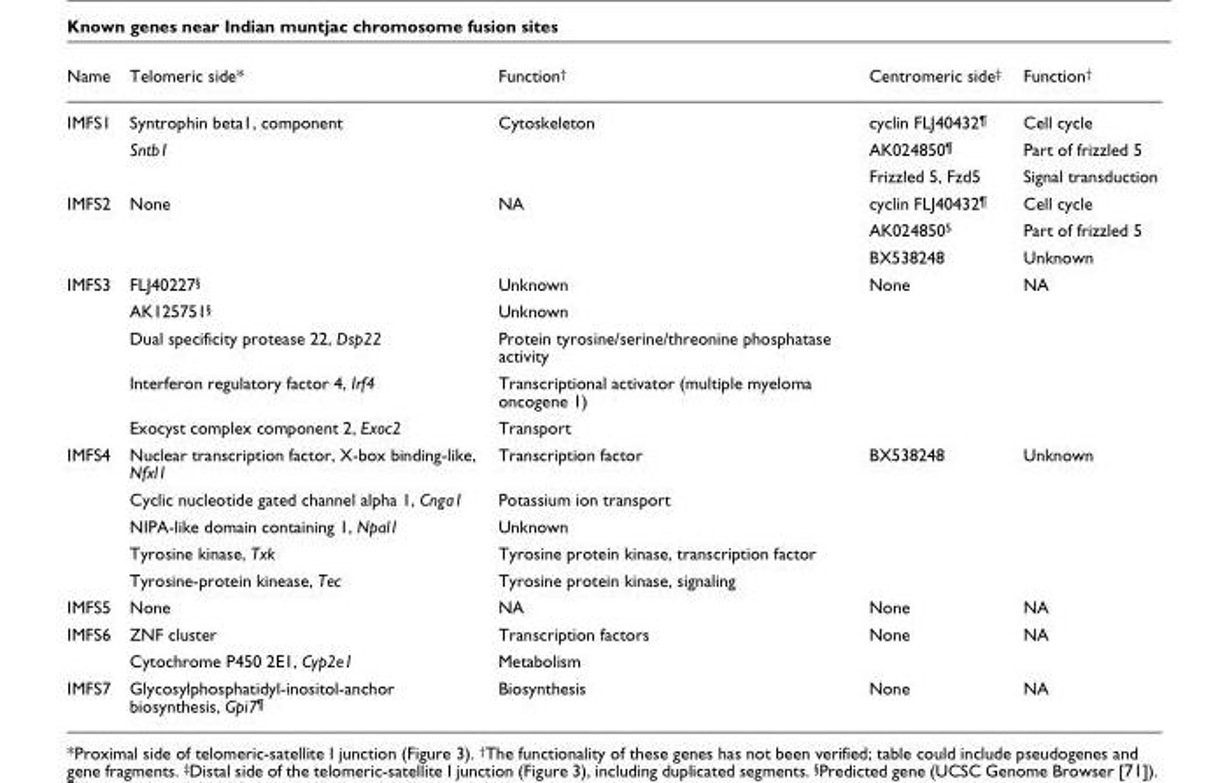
<table><thead><tr><td>Name</td><td>Telomeric side*</td><td>Function<sup>†</sup></td><td>Centromeric side<sup>‡</sup></td><td>Function<sup>†</sup></td></tr></thead><tbody><tr><td rowspan="3">IMFS1</td><td>Syntrophin beta1, component</td><td>Cytoskeleton</td><td>cyclin FLJ40432<sup>¶</sup></td><td>Cell cycle</td></tr><tr><td>Sntb1</td><td></td><td>AK024850<sup>¶</sup></td><td>Part of frizzled 5</td></tr><tr><td></td><td></td><td>Frizzled 5, Fzd5</td><td>Signal transduction</td></tr><tr><td rowspan="3">IMFS2</td><td>None</td><td>NA</td><td>cyclin FLJ40432<sup>¶</sup></td><td>Cell cycle</td></tr><tr><td></td><td></td><td>AK024850<sup>5</sup></td><td>Part of frizzled 5</td></tr><tr><td></td><td></td><td>BX538248</td><td>Unknown</td></tr><tr><td rowspan="5">IMFS3</td><td>FLJ40227<sup>§</sup></td><td>Unknown</td><td>None</td><td>NA</td></tr><tr><td>AK125751<sup>§</sup></td><td>Unknown</td><td></td><td></td></tr><tr><td>Dual specificity protease 22, Dsp22</td><td>Protein tyrosine/serine/threonine phosphatase activity</td><td></td><td></td></tr><tr><td>Interferon regulatory factor 4, Irf4</td><td>Transcriptional activator (multiple myeloma oncogene 1)</td><td></td><td></td></tr><tr><td>Exocyst complex component 2, Exoc2</td><td>Transport</td><td></td><td></td></tr><tr><td rowspan="5">IMFS4</td><td>Nuclear transcription factor, X-box binding-like, Nfxl1</td><td>Transcription factor</td><td>BX538248</td><td>Unknown</td></tr><tr><td>Cyclic nucleotide gated channel alpha 1, Cnga1</td><td>Potassium ion transport</td><td></td><td></td></tr><tr><td>NIPA-like domain containing 1, Npal1</td><td>Unknown</td><td></td><td></td></tr><tr><td>Tyrosine kinase, Txk</td><td>Tyrosine protein kinase, transcription factor</td><td></td><td></td></tr><tr><td>Tyrosine-protein kinease, Tec</td><td>Tyrosine protein kinase, signaling</td><td></td><td></td></tr><tr><td>IMFS5</td><td>None</td><td>NA</td><td>None</td><td>NA</td></tr><tr><td rowspan="2">IMFS6</td><td>ZNF cluster</td><td>Transcription factors</td><td>None</td><td>NA</td></tr><tr><td>Cytochrome P450 2E1, Cyp2e1</td><td>Metabolism</td><td></td><td></td></tr><tr><td>IMFS7</td><td>Glycosylphosphatidyl-inositol-anchor biosynthesis, Gpi7<sup>¶</sup></td><td>Biosynthesis</td><td>None</td><td>NA</td></tr></tbody></table>